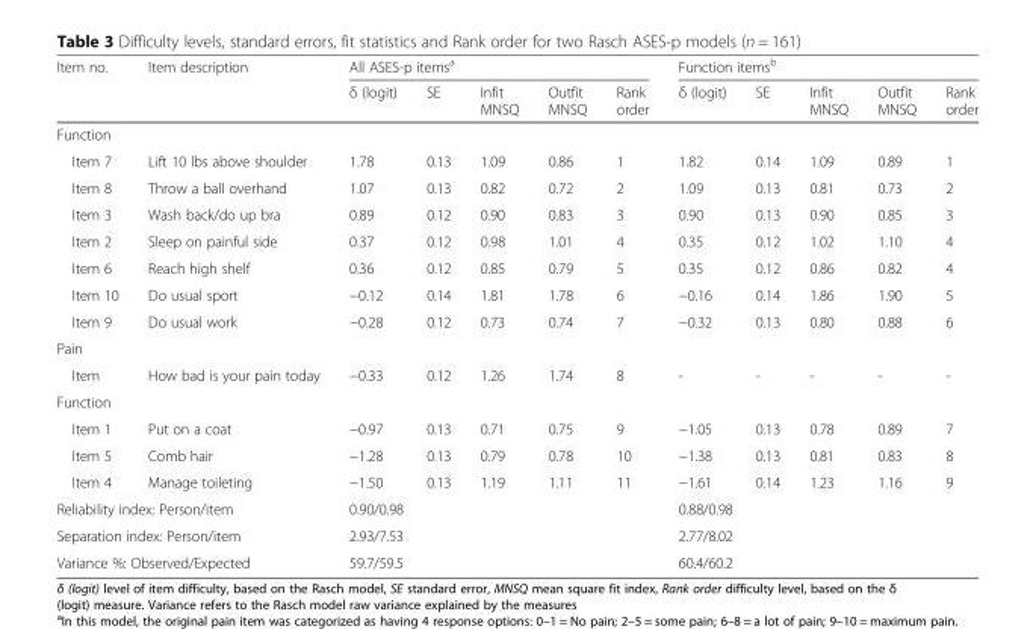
<table><thead><tr><td rowspan="2">Item no.</td><td rowspan="2">Item description</td><td colspan="5">All ASES-p items<sup>a</sup></td><td colspan="5">Function items<sup>b</sup></td></tr><tr><td>δ (logit)</td><td>SE</td><td>Infit MNSQ</td><td>Outfit MNSQ</td><td>Rank order</td><td>δ (logit)</td><td>SE</td><td>Infit MNSQ</td><td>Outfit MNSQ</td><td>Rank order</td></tr></thead><tbody><tr><td colspan="12">Function</td></tr><tr><td>Item 7</td><td>Lift 10 lbs above shoulder</td><td>1.78</td><td>0.13</td><td>1.09</td><td>0.86</td><td>1</td><td>1.82</td><td>0.14</td><td>1.09</td><td>0.89</td><td>1</td></tr><tr><td>Item 8</td><td>Throw a ball overhand</td><td>1.07</td><td>0.13</td><td>0.82</td><td>0.72</td><td>2</td><td>1.09</td><td>0.13</td><td>0.81</td><td>0.73</td><td>2</td></tr><tr><td>Item 3</td><td>Wash back/do up bra</td><td>0.89</td><td>0.12</td><td>0.90</td><td>0.83</td><td>3</td><td>0.90</td><td>0.13</td><td>0.90</td><td>0.85</td><td>3</td></tr><tr><td>Item 2</td><td>Sleep on painful side</td><td>0.37</td><td>0.12</td><td>0.98</td><td>1.01</td><td>4</td><td>0.35</td><td>0.12</td><td>1.02</td><td>1.10</td><td>4</td></tr><tr><td>Item 6</td><td>Reach high shelf</td><td>0.36</td><td>0.12</td><td>0.85</td><td>0.79</td><td>5</td><td>0.35</td><td>0.12</td><td>0.86</td><td>0.82</td><td>4</td></tr><tr><td>Item 10</td><td>Do usual sport</td><td>−0.12</td><td>0.14</td><td>1.81</td><td>1.78</td><td>6</td><td>−0.16</td><td>0.14</td><td>1.86</td><td>1.90</td><td>5</td></tr><tr><td>Item 9</td><td>Do usual work</td><td>−0.28</td><td>0.12</td><td>0.73</td><td>0.74</td><td>7</td><td>−0.32</td><td>0.13</td><td>0.80</td><td>0.88</td><td>6</td></tr><tr><td colspan="12">Pain</td></tr><tr><td>Item</td><td>How bad is your pain today</td><td>−0.33</td><td>0.12</td><td>1.26</td><td>1.74</td><td>8</td><td>-</td><td>-</td><td>-</td><td>-</td><td>-</td></tr><tr><td colspan="12">Function</td></tr><tr><td>Item 1</td><td>Put on a coat</td><td>−0.97</td><td>0.13</td><td>0.71</td><td>0.75</td><td>9</td><td>−1.05</td><td>0.13</td><td>0.78</td><td>0.89</td><td>7</td></tr><tr><td>Item 5</td><td>Comb hair</td><td>−1.28</td><td>0.13</td><td>0.79</td><td>0.78</td><td>10</td><td>−1.38</td><td>0.13</td><td>0.81</td><td>0.83</td><td>8</td></tr><tr><td>Item 4</td><td>Manage toileting</td><td>−1.50</td><td>0.13</td><td>1.19</td><td>1.11</td><td>11</td><td>−1.61</td><td>0.14</td><td>1.23</td><td>1.16</td><td>9</td></tr><tr><td colspan="2">Reliability index: Person/item</td><td colspan="5">0.90/0.98</td><td colspan="5">0.88/0.98</td></tr><tr><td colspan="2">Separation index: Person/item</td><td colspan="5">2.93/7.53</td><td colspan="5">2.77/8.02</td></tr><tr><td colspan="2">Variance %: Observed/Expected</td><td colspan="5">59.7/59.5</td><td colspan="5">60.4/60.2</td></tr></tbody></table>